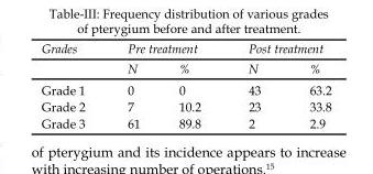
<table><thead><tr><td rowspan="2">Grades</td><td colspan="2">Pre treatment</td><td colspan="2">Post treatment</td></tr><tr><td>N</td><td>%</td><td>N</td><td>%</td></tr></thead><tbody><tr><td>Grade 1</td><td>0</td><td>0</td><td>43</td><td>63.2</td></tr><tr><td>Grade 2</td><td>7</td><td>10.2</td><td>23</td><td>33.8</td></tr><tr><td>Grade 3</td><td>61</td><td>89.8</td><td>2</td><td>2.9</td></tr></tbody></table>